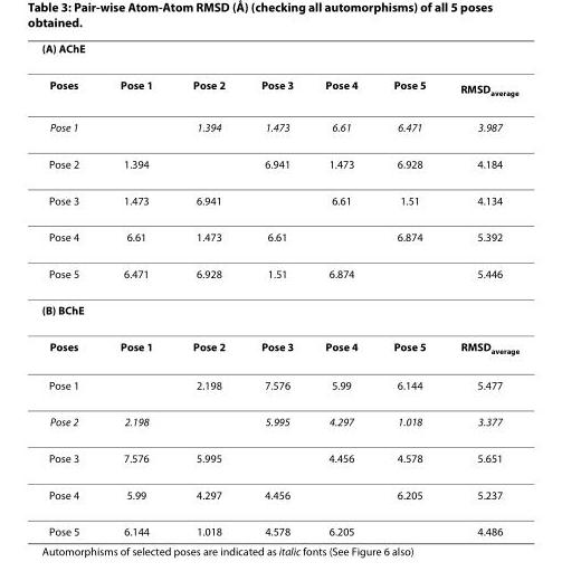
<table><thead><tr><td colspan="7">(A) AChE</td></tr><tr><td>Poses</td><td>Pose 1</td><td>Pose 2</td><td>Pose 3</td><td>Pose 4</td><td>Pose 5</td><td>RMSD<sub>average</sub></td></tr></thead><tbody><tr><td>Pose 1</td><td></td><td>1.394</td><td>1.473</td><td>6.61</td><td>6.471</td><td>3.987</td></tr><tr><td>Pose 2</td><td>1.394</td><td></td><td>6.941</td><td>1.473</td><td>6.928</td><td>4.184</td></tr><tr><td>Pose 3</td><td>1.473</td><td>6.941</td><td></td><td>6.61</td><td>1.51</td><td>4.134</td></tr><tr><td>Pose 4</td><td>6.61</td><td>1.473</td><td>6.61</td><td></td><td>6.874</td><td>5.392</td></tr><tr><td>Pose 5</td><td>6.471</td><td>6.928</td><td>1.51</td><td>6.874</td><td></td><td>5.446</td></tr><tr><td colspan="7">(B) BChE</td></tr><tr><td>Poses</td><td>Pose 1</td><td>Pose 2</td><td>Pose 3</td><td>Pose 4</td><td>Pose 5</td><td>RMSD<sub>average</sub></td></tr><tr><td>Pose 1</td><td></td><td>2.198</td><td>7.576</td><td>5.99</td><td>6.144</td><td>5.477</td></tr><tr><td>Pose 2</td><td>2.198</td><td></td><td>5.995</td><td>4.297</td><td>1.018</td><td>3.377</td></tr><tr><td>Pose 3</td><td>7.576</td><td>5.995</td><td></td><td>4.456</td><td>4.578</td><td>5.651</td></tr><tr><td>Pose 4</td><td>5.99</td><td>4.297</td><td>4.456</td><td></td><td>6.205</td><td>5.237</td></tr><tr><td>Pose 5</td><td>6.144</td><td>1.018</td><td>4.578</td><td>6.205</td><td></td><td>4.486</td></tr></tbody></table>